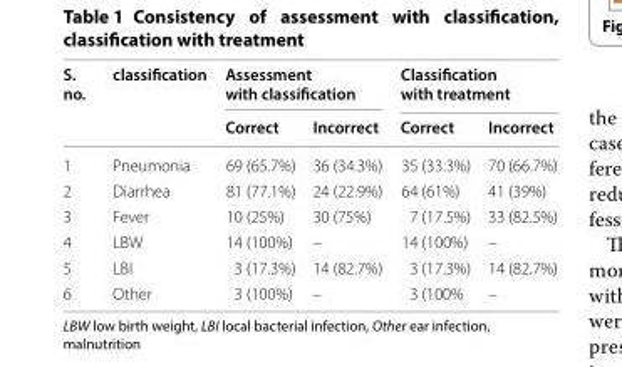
<table><thead><tr><td rowspan="2">S. no.</td><td rowspan="2">classification</td><td colspan="2">Assessment with classification</td><td colspan="2">Classification with treatment</td></tr><tr><td>Correct</td><td>Incorrect</td><td>Correct</td><td>Incorrect</td></tr></thead><tbody><tr><td>1</td><td>Pneumonia</td><td>69 (65.7%)</td><td>36 (34.3%)</td><td>35 (33.3%)</td><td>70 (66.7%)</td></tr><tr><td>2</td><td>Diarrhea</td><td>81 (77.1%)</td><td>24 (22.9%)</td><td>64 (61%)</td><td>41 (39%)</td></tr><tr><td>3</td><td>Fever</td><td>10 (25%)</td><td>30 (75%)</td><td>7 (17.5%)</td><td>33 (82.5%)</td></tr><tr><td>4</td><td>LBW</td><td>14 (100%)</td><td>–</td><td>14 (100%)</td><td>–</td></tr><tr><td>5</td><td>LBI</td><td>3 (17.3%)</td><td>14 (82.7%)</td><td>3 (17.3%)</td><td>14 (82.7%)</td></tr><tr><td>6</td><td>Other</td><td>3 (100%)</td><td>–</td><td>3 (100%</td><td>–</td></tr></tbody></table>